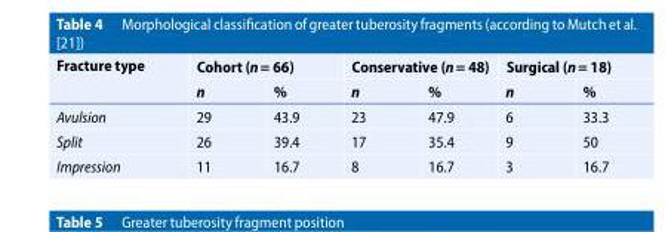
<table><thead><tr><td rowspan="2">Fracture type</td><td colspan="2">Cohort (n= 66)</td><td colspan="2">Conservative (n= 48)</td><td colspan="2">Surgical (n= 18)</td></tr><tr><td>n</td><td>%</td><td>n</td><td>%</td><td>n</td><td>%</td></tr></thead><tbody><tr><td>Avulsion</td><td>29</td><td>43.9</td><td>23</td><td>47.9</td><td>6</td><td>33.3</td></tr><tr><td>Split</td><td>26</td><td>39.4</td><td>17</td><td>35.4</td><td>9</td><td>50</td></tr><tr><td>Impression</td><td>11</td><td>16.7</td><td>8</td><td>16.7</td><td>3</td><td>16.7</td></tr></tbody></table>